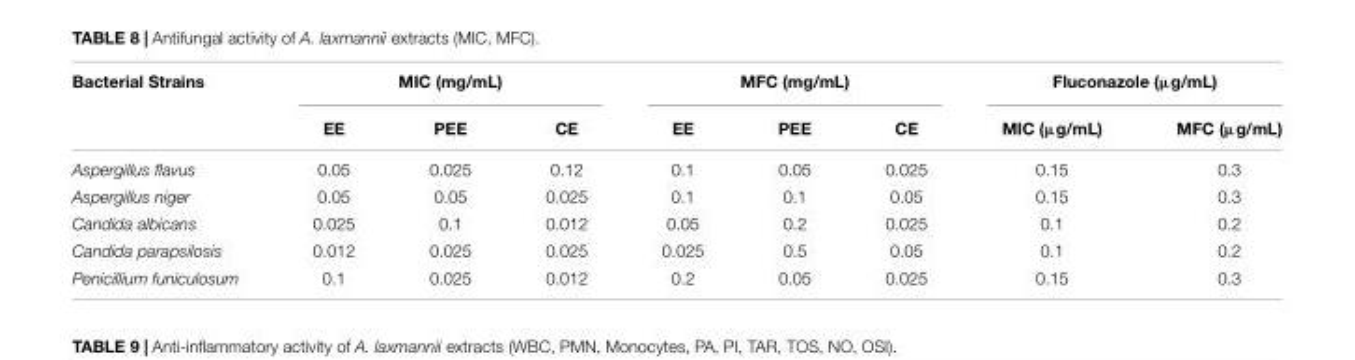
<table><thead><tr><td rowspan="2">Bacterial Strains</td><td colspan="3">MIC (mg/mL)</td><td colspan="3">MFC (mg/mL)</td><td colspan="2">Fluconazole (µg/mL)</td></tr><tr><td>EE</td><td>PEE</td><td>CE</td><td>EE</td><td>PEE</td><td>CE</td><td>MIC (µg/mL)</td><td>MFC (µg/mL)</td></tr></thead><tbody><tr><td>Aspergillus flavus</td><td>0.05</td><td>0.025</td><td>0.12</td><td>0.1</td><td>0.05</td><td>0.025</td><td>0.15</td><td>0.3</td></tr><tr><td>Aspergillus niger</td><td>0.05</td><td>0.05</td><td>0.025</td><td>0.1</td><td>0.1</td><td>0.05</td><td>0.15</td><td>0.3</td></tr><tr><td>Candida albicans</td><td>0.025</td><td>0.1</td><td>0.012</td><td>0.05</td><td>0.2</td><td>0.025</td><td>0.1</td><td>0.2</td></tr><tr><td>Candida parapsilosis</td><td>0.012</td><td>0.025</td><td>0.025</td><td>0.025</td><td>0.5</td><td>0.05</td><td>0.1</td><td>0.2</td></tr><tr><td>Penicillium funiculosum</td><td>0.1</td><td>0.025</td><td>0.012</td><td>0.2</td><td>0.05</td><td>0.025</td><td>0.15</td><td>0.3</td></tr></tbody></table>